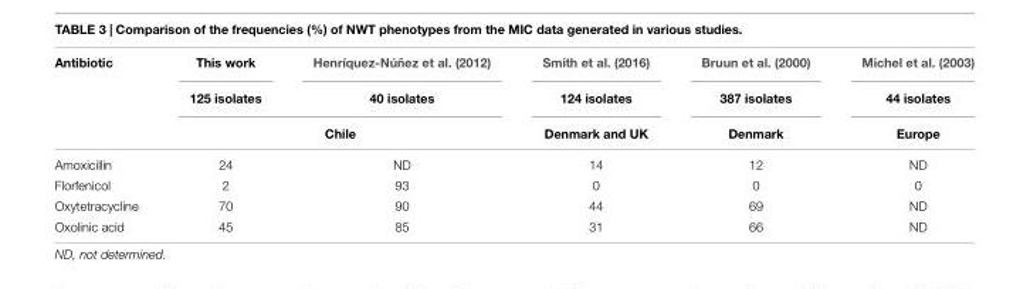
<table><thead><tr><td rowspan="3">Antibiotic</td><td rowspan="2">This work 125 isolates</td><td rowspan="2">Henríquez-Núñez et al. (2012) 40 isolates</td><td rowspan="3">Smith et al. (2016) 124 isolates Denmark and UK</td><td rowspan="3">Bruun et al. (2000) 387 isolates Denmark</td><td rowspan="3">Michel et al. (2003) 44 isolates Europe</td></tr><tr></tr><tr><td colspan="2">Chile</td></tr></thead><tbody><tr><td>Amoxicillin</td><td>24</td><td>ND</td><td>14</td><td>12</td><td>ND</td></tr><tr><td>Florfenicol</td><td>2</td><td>93</td><td>0</td><td>0</td><td>0</td></tr><tr><td>Oxytetracycline</td><td>70</td><td>90</td><td>44</td><td>69</td><td>ND</td></tr><tr><td>Oxolinic acid</td><td>45</td><td>85</td><td>31</td><td>66</td><td>ND</td></tr></tbody></table>